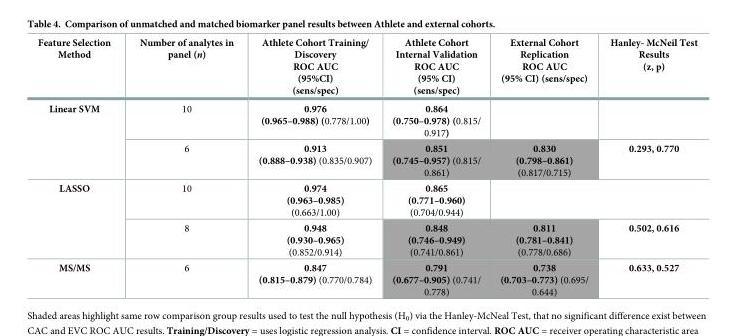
<table><thead><tr><td>Feature Selection Method</td><td>Number of analytes in panel (n)</td><td>Athlete Cohort Training/ Discovery ROC AUC (95%CI) (sens/spec)</td><td>Athlete Cohort Internal Validation ROC AUC (95% CI) (sens/spec)</td><td>External Cohort Replication ROC AUC (95% CI) (sens/spec)</td><td>Hanley- McNeil Test Results (z, p)</td></tr></thead><tbody><tr><td rowspan="2">Linear SVM</td><td>10</td><td>0.976 (0.965–0.988) (0.778/1.00)</td><td>0.864 (0.750–0.978) (0.815/ 0.917)</td><td></td><td></td></tr><tr><td>6</td><td>0.913 (0.888–0.938) (0.835/0.907)</td><td>0.851 (0.745–0.957) (0.815/ 0.861)</td><td>0.830 (0.798–0.861) (0.817/0.715)</td><td>0.293, 0.770</td></tr><tr><td rowspan="2">LASSO</td><td>10</td><td>0.974 (0.963–0.985) (0.663/1.00)</td><td>0.865 (0.771–0.960) (0.704/0.944)</td><td colspan="2"></td></tr><tr><td>8</td><td>0.948 (0.930–0.965) (0.852/0.914)</td><td>0.848 (0.746–0.949) (0.741/0.861)</td><td>0.811 (0.781–0.841) (0.778/0.686)</td><td>0.502, 0.616</td></tr><tr><td>MS/MS</td><td>6</td><td>0.847 (0.815–0.879) (0.770/0.784)</td><td>0.791 (0.677–0.905) (0.741/ 0.778)</td><td>0.738 (0.703–0.773) (0.695/ 0.644)</td><td>0.633, 0.527</td></tr></tbody></table>